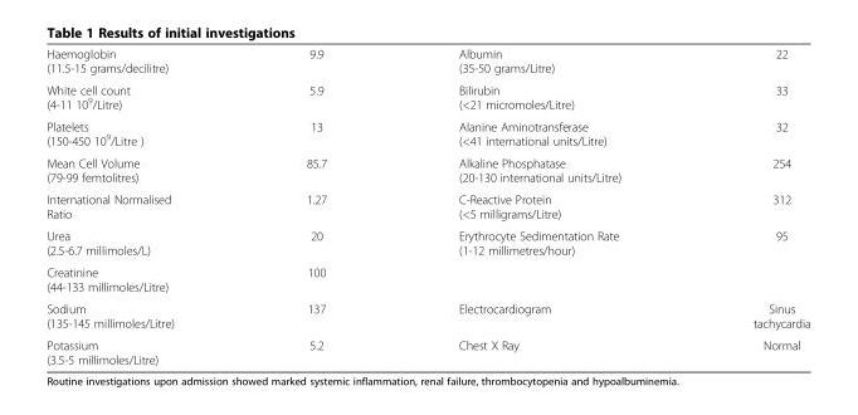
<table><tbody><tr><td>Haemoglobin (11.5-15 grams/decilitre)</td><td>9.9</td><td>Albumin (35-50 grams/Litre)</td><td>22</td></tr><tr><td>White cell count (4-11 10<sup>9</sup>/Litre)</td><td>5.9</td><td>Bilirubin (&lt;21 micromoles/Litre)</td><td>33</td></tr><tr><td>Platelets (150-450 10<sup>9</sup>/Litre )</td><td>13</td><td>Alanine Aminotransferase (&lt;41 international units/Litre)</td><td>32</td></tr><tr><td>Mean Cell Volume (79-99 femtolitres)</td><td>85.7</td><td>Alkaline Phosphatase (20-130 international units/Litre)</td><td>254</td></tr><tr><td>International Normalised Ratio</td><td>1.27</td><td>C-Reactive Protein (&lt;5 milligrams/Litre)</td><td>312</td></tr><tr><td>Urea (2.5-6.7 millimoles/L)</td><td>20</td><td>Erythrocyte Sedimentation Rate (1-12 millimetres/hour)</td><td>95</td></tr><tr><td>Creatinine (44-133 millimoles/Litre)</td><td>100</td><td></td><td></td></tr><tr><td>Sodium (135-145 millimoles/Litre)</td><td>137</td><td>Electrocardiogram</td><td>Sinus tachycardia</td></tr><tr><td>Potassium (3.5-5 millimoles/Litre)</td><td>5.2</td><td>Chest X Ray</td><td>Normal</td></tr></tbody></table>